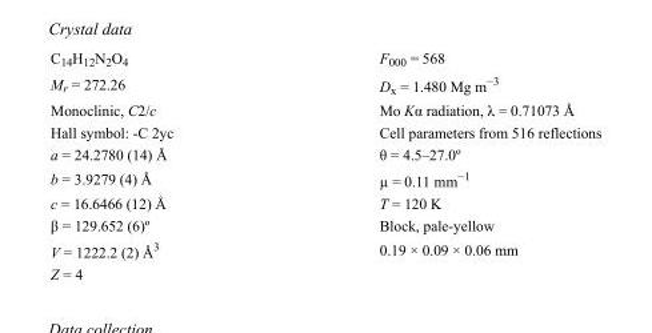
<table><tbody><tr><td>C<sub>14</sub>H<sub>12</sub>N<sub>2</sub>O<sub>4</sub></td><td>F000 = 568</td></tr><tr><td>M<sub>r</sub> = 272.26</td><td>D<sub>x</sub> = 1.480 Mg m<sup>−3</sup></td></tr><tr><td>Monoclinic, C2/c</td><td>Mo Kα radiation, λ = 0.71073 Å</td></tr><tr><td>Hall symbol: -C 2yc</td><td>Cell parameters from 516 reflections</td></tr><tr><td>a = 24.2780 (14) Å</td><td>θ = 4.5–27.0º</td></tr><tr><td>b = 3.9279 (4) Å</td><td>µ = 0.11 mm<sup>−1</sup></td></tr><tr><td>c = 16.6466 (12) Å</td><td>T = 120 K</td></tr><tr><td>β = 129.652 (6)º</td><td>Block, pale-yellow</td></tr><tr><td>V = 1222.2 (2) Å<sup>3</sup></td><td>0.19 × 0.09 × 0.06 mm</td></tr><tr><td>Z = 4</td><td></td></tr></tbody></table>